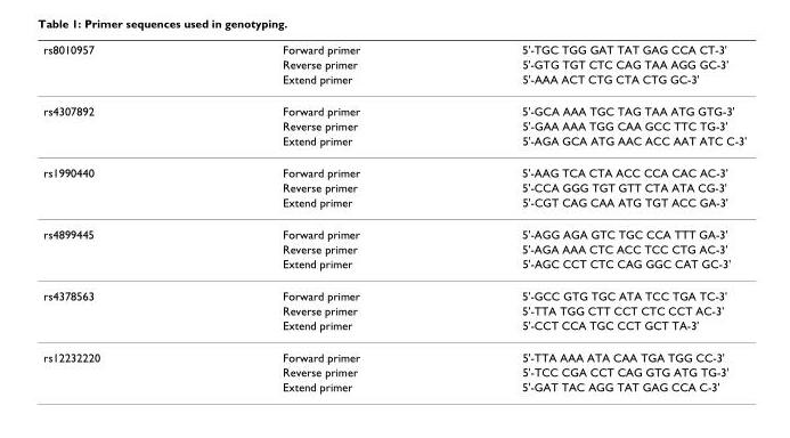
<table><thead><tr><td rowspan="3">rs8010957</td><td rowspan="3">Forward primer Reverse primer Extend primer</td><td rowspan="3">5&#x27;-TGC TGG GAT TAT GAG CCA CT-3&#x27; 5&#x27;-GTG TGT CTC CAG TAA AGG GC-3&#x27; 5&#x27;-AAA ACT CTG CTA CTG GC-3&#x27;</td></tr><tr></tr><tr></tr></thead><tbody><tr><td rowspan="3">rs4307892</td><td>Forward primer</td><td>5&#x27;-GCA AAA TGC TAG TAA ATG GTG-3&#x27;</td></tr><tr><td>Reverse primer</td><td>5&#x27;-GAA AAA TGG CAA GCC TTC TG-3&#x27;</td></tr><tr><td>Extend primer</td><td>5&#x27;-AGA GCA ATG AAC ACC AAT ATC C-3&#x27;</td></tr><tr><td rowspan="3">rs1990440</td><td>Forward primer</td><td>5&#x27;-AAG TCA CTA ACC CCA CAC AC-3&#x27;</td></tr><tr><td>Reverse primer</td><td>5&#x27;-CCA GGG TGT GTT CTA ATA CG-3&#x27;</td></tr><tr><td>Extend primer</td><td>5&#x27;-CGT CAG CAA ATG TGT ACC GA-3&#x27;</td></tr><tr><td rowspan="3">rs4899445</td><td>Forward primer</td><td>5&#x27;-AGG AGA GTC TGC CCA TTT GA-3&#x27;</td></tr><tr><td>Reverse primer</td><td>5&#x27;-AGA AAA CTC ACC TCC CTG AC-3&#x27;</td></tr><tr><td>Extend primer</td><td>5&#x27;-AGC CCT CTC CAG GGC CAT GC-3&#x27;</td></tr><tr><td rowspan="3">rs4378563</td><td>Forward primer</td><td>5&#x27;-GCC GTG TGC ATA TCC TGA TC-3&#x27;</td></tr><tr><td>Reverse primer</td><td>5&#x27;-TTA TGG CTT CCT CTC CCT AC-3&#x27;</td></tr><tr><td>Extend primer</td><td>5&#x27;-CCT CCA TGC CCT GCT TA-3&#x27;</td></tr><tr><td rowspan="3">rs12232220</td><td>Forward primer</td><td>5&#x27;-TTA AAA ATA CAA TGA TGG CC-3&#x27;</td></tr><tr><td>Reverse primer</td><td>5&#x27;-TCC CGA CCT CAG GTG ATG TG-3&#x27;</td></tr><tr><td>Extend primer</td><td>5&#x27;-GAT TAC AGG TAT GAG CCA C-3&#x27;</td></tr></tbody></table>